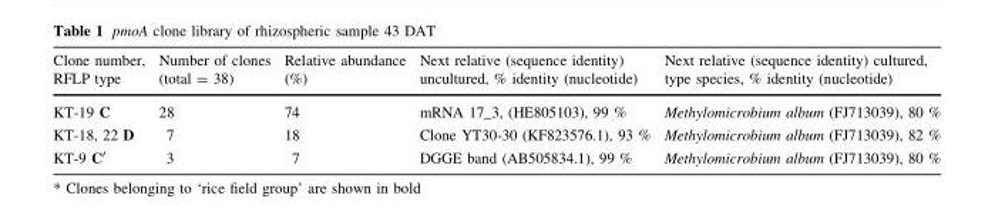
<table><thead><tr><td>Clone number, RFLP type</td><td>Number of clones (total = 38)</td><td>Relative abundance (%)</td><td>Next relative (sequence identity) uncultured, % identity (nucleotide)</td><td>Next relative (sequence identity) cultured, type species, % identity (nucleotide)</td></tr></thead><tbody><tr><td>KT-19 C</td><td>28</td><td>74</td><td>mRNA 17_3, (HE805103), 99 %</td><td>Methylomicrobium album (FJ713039), 80 %</td></tr><tr><td>KT-18, 22 D</td><td>7</td><td>18</td><td>Clone YT30-30 (KF823576.1), 93 %</td><td>Methylomicrobium album (FJ713039), 82 %</td></tr><tr><td>KT-9 C′</td><td>3</td><td>7</td><td>DGGE band (AB505834.1), 99 %</td><td>Methylomicrobium album (FJ713039), 80 %</td></tr></tbody></table>